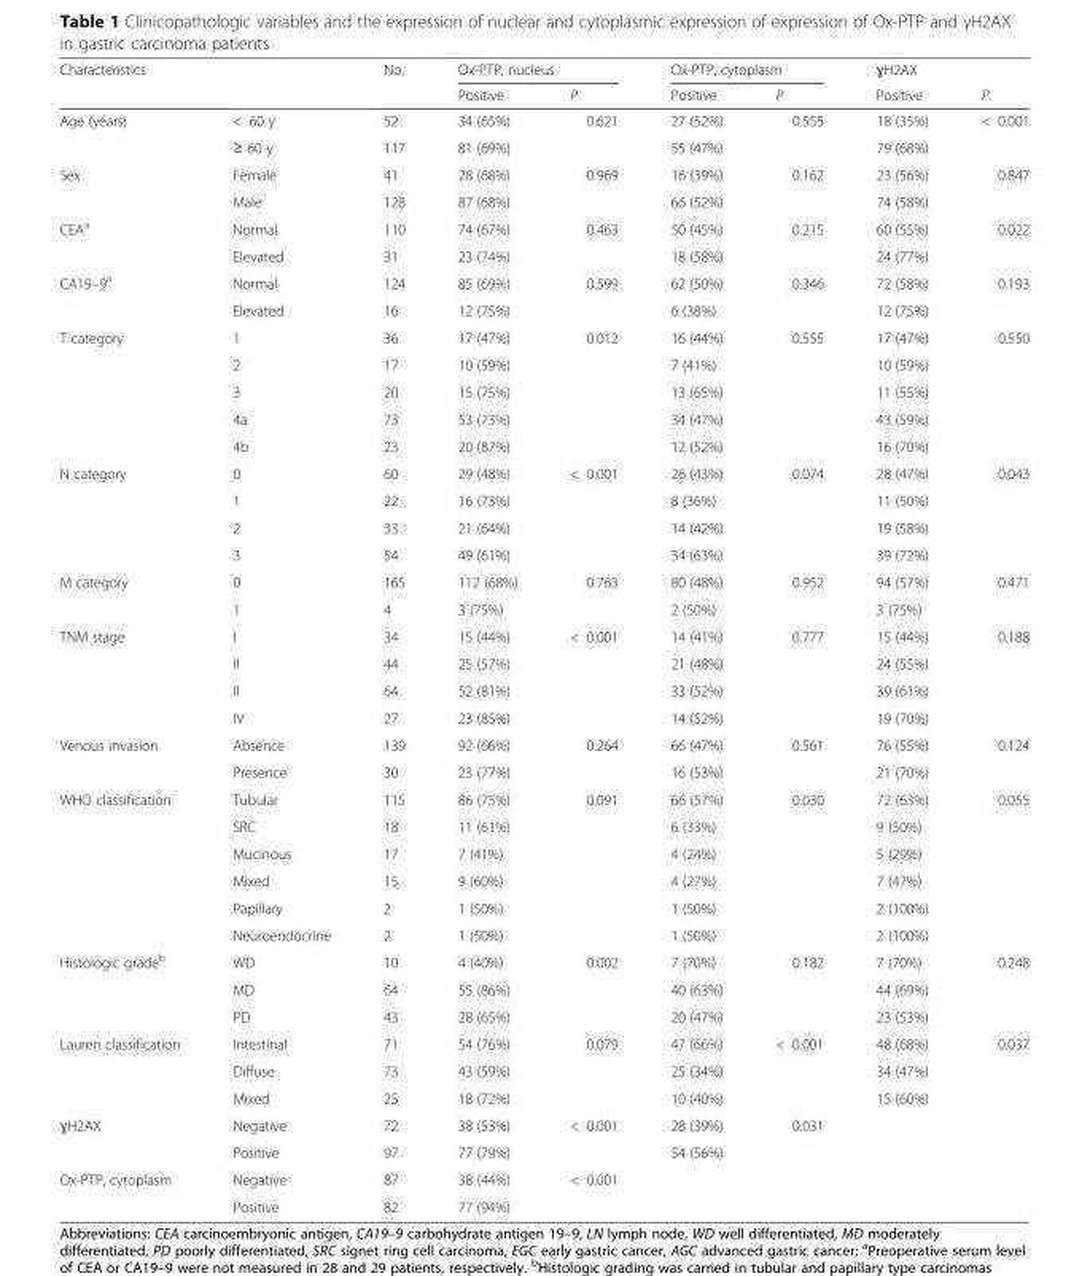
<table><thead><tr><td rowspan="2">Characteristics</td><td rowspan="2"></td><td rowspan="2">No.</td><td colspan="2">Ox-PTP, nucleus</td><td colspan="2">Ox-PTP, cytoplasm</td><td rowspan="2">ɣH2AX Positive</td><td rowspan="2">P</td></tr><tr><td>Positive</td><td>P</td><td>Positive</td><td>P</td></tr></thead><tbody><tr><td rowspan="2">Age (years)</td><td>&lt; 60 y</td><td>52</td><td>34 (65%)</td><td>0.621</td><td>27 (52%)</td><td>0.555</td><td>18 (35%)</td><td>&lt; 0.001</td></tr><tr><td>≥ 60 y</td><td>117</td><td>81 (69%)</td><td></td><td>55 (47%)</td><td></td><td>79 (68%)</td><td></td></tr><tr><td rowspan="2">Sex</td><td>Female</td><td>41</td><td>28 (68%)</td><td>0.969</td><td>16 (39%)</td><td>0.162</td><td>23 (56%)</td><td>0.847</td></tr><tr><td>Male</td><td>128</td><td>87 (68%)</td><td></td><td>66 (52%)</td><td></td><td>74 (58%)</td><td></td></tr><tr><td rowspan="2">CEA<sup>a</sup></td><td>Normal</td><td>110</td><td>74 (67%)</td><td>0.463</td><td>50 (45%)</td><td>0.215</td><td>60 (55%)</td><td>0.022</td></tr><tr><td>Elevated</td><td>31</td><td>23 (74%)</td><td></td><td>18 (58%)</td><td></td><td>24 (77%)</td><td></td></tr><tr><td rowspan="2">CA19–9<sup>a</sup></td><td>Normal</td><td>124</td><td>85 (69%)</td><td>0.599</td><td>62 (50%)</td><td>0.346</td><td>72 (58%)</td><td>0.193</td></tr><tr><td>Elevated</td><td>16</td><td>12 (75%)</td><td></td><td>6 (38%)</td><td></td><td>12 (75%)</td><td></td></tr><tr><td rowspan="5">T category</td><td>1</td><td>36</td><td>17 (47%)</td><td>0.012</td><td>16 (44%)</td><td>0.555</td><td>17 (47%)</td><td>0.550</td></tr><tr><td>2</td><td>17</td><td>10 (59%)</td><td></td><td>7 (41%)</td><td></td><td>10 (59%)</td><td></td></tr><tr><td>3</td><td>20</td><td>15 (75%)</td><td></td><td>13 (65%)</td><td></td><td>11 (55%)</td><td></td></tr><tr><td>4a</td><td>73</td><td>53 (73%)</td><td></td><td>34 (47%)</td><td></td><td>43 (59%)</td><td></td></tr><tr><td>4b</td><td>23</td><td>20 (87%)</td><td></td><td>12 (52%)</td><td></td><td>16 (70%)</td><td></td></tr><tr><td rowspan="4">N category</td><td>0</td><td>60</td><td>29 (48%)</td><td>&lt; 0.001</td><td>26 (43%)</td><td>0.074</td><td>28 (47%)</td><td>0.043</td></tr><tr><td>1</td><td>22</td><td>16 (73%)</td><td></td><td>8 (36%)</td><td></td><td>11 (50%)</td><td></td></tr><tr><td>2</td><td>33</td><td>21 (64%)</td><td></td><td>14 (42%)</td><td></td><td>19 (58%)</td><td></td></tr><tr><td>3</td><td>54</td><td>49 (61%)</td><td></td><td>34 (63%)</td><td></td><td>39 (72%)</td><td></td></tr><tr><td rowspan="2">M category</td><td>0</td><td>165</td><td>112 (68%)</td><td>0.763</td><td>80 (48%)</td><td>0.952</td><td>94 (57%)</td><td>0.471</td></tr><tr><td>1</td><td>4</td><td>3 (75%)</td><td></td><td>2 (50%)</td><td></td><td>3 (75%)</td><td></td></tr><tr><td rowspan="4">TNM stage</td><td>I</td><td>34</td><td>15 (44%)</td><td>&lt; 0.001</td><td>14 (41%)</td><td>0.777</td><td>15 (44%)</td><td>0.188</td></tr><tr><td>II</td><td>44</td><td>25 (57%)</td><td></td><td>21 (48%)</td><td></td><td>24 (55%)</td><td></td></tr><tr><td>II</td><td>64</td><td>52 (81%)</td><td></td><td>33 (52%)</td><td></td><td>39 (61%)</td><td></td></tr><tr><td>IV</td><td>27</td><td>23 (85%)</td><td></td><td>14 (52%)</td><td></td><td>19 (70%)</td><td></td></tr><tr><td rowspan="2">Venous invasion</td><td>Absence</td><td>139</td><td>92 (66%)</td><td>0.264</td><td>66 (47%)</td><td>0.561</td><td>76 (55%)</td><td>0.124</td></tr><tr><td>Presence</td><td>30</td><td>23 (77%)</td><td></td><td>16 (53%)</td><td></td><td>21 (70%)</td><td></td></tr><tr><td rowspan="6">WHO classification</td><td>Tubular</td><td>115</td><td>86 (75%)</td><td>0.091</td><td>66 (57%)</td><td>0.030</td><td>72 (63%)</td><td>0.055</td></tr><tr><td>SRC</td><td>18</td><td>11 (61%)</td><td></td><td>6 (33%)</td><td></td><td>9 (50%)</td><td></td></tr><tr><td>Mucinous</td><td>17</td><td>7 (41%)</td><td></td><td>4 (24%)</td><td></td><td>5 (29%)</td><td></td></tr><tr><td>Mixed</td><td>15</td><td>9 (60%)</td><td></td><td>4 (27%)</td><td></td><td>7 (47%)</td><td></td></tr><tr><td>Papillary</td><td>2</td><td>1 (50%)</td><td></td><td>1 (50%)</td><td></td><td>2 (100%)</td><td></td></tr><tr><td>Neuroendocrine</td><td>2</td><td>1 (50%)</td><td></td><td>1 (50%)</td><td></td><td>2 (100%)</td><td></td></tr><tr><td rowspan="3">Histologic grade<sup>b</sup></td><td>WD</td><td>10</td><td>4 (40%)</td><td>0.002</td><td>7 (70%)</td><td>0.182</td><td>7 (70%)</td><td>0.248</td></tr><tr><td>MD</td><td>64</td><td>55 (86%)</td><td></td><td>40 (63%)</td><td></td><td>44 (69%)</td><td></td></tr><tr><td>PD</td><td>43</td><td>28 (65%)</td><td></td><td>20 (47%)</td><td></td><td>23 (53%)</td><td></td></tr><tr><td rowspan="3">Lauren classification</td><td>Intestinal</td><td>71</td><td>54 (76%)</td><td>0.079</td><td>47 (66%)</td><td>&lt; 0.001</td><td>48 (68%)</td><td>0.037</td></tr><tr><td>Diffuse</td><td>73</td><td>43 (59%)</td><td></td><td>25 (34%)</td><td></td><td>34 (47%)</td><td></td></tr><tr><td>Mixed</td><td>25</td><td>18 (72%)</td><td></td><td>10 (40%)</td><td></td><td>15 (60%)</td><td></td></tr><tr><td rowspan="2">ɣH2AX</td><td>Negative</td><td>72</td><td>38 (53%)</td><td>&lt; 0.001</td><td>28 (39%)</td><td>0.031</td><td></td><td></td></tr><tr><td>Positive</td><td>97</td><td>77 (79%)</td><td></td><td>54 (56%)</td><td></td><td></td><td></td></tr><tr><td rowspan="2">Ox-PTP, cytoplasm</td><td>Negative</td><td>87</td><td>38 (44%)</td><td>&lt; 0.001</td><td></td><td></td><td></td><td></td></tr><tr><td>Positive</td><td>82</td><td>77 (94%)</td><td></td><td></td><td></td><td></td><td></td></tr></tbody></table>